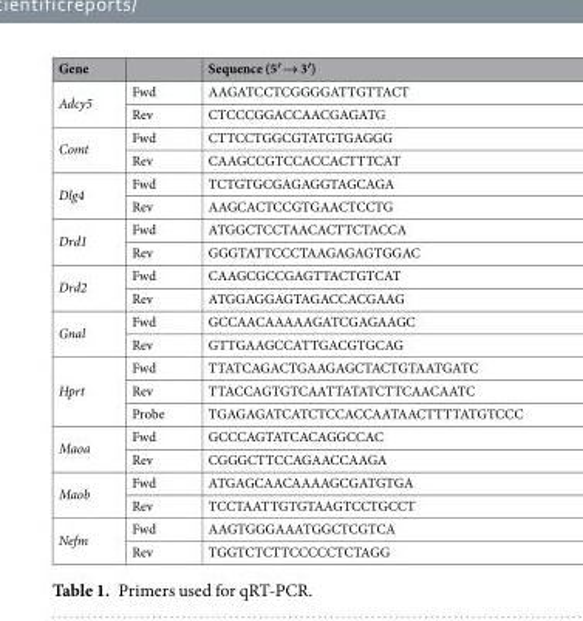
<table><thead><tr><td>Gene</td><td></td><td>Sequence (5′ → 3′)</td></tr></thead><tbody><tr><td rowspan="2">Adcy5</td><td>Fwd</td><td>AAGATCCTCGGGGATTGTTACT</td></tr><tr><td>Rev</td><td>CTCCCGGACCAACGAGATG</td></tr><tr><td rowspan="2">Comt</td><td>Fwd</td><td>CTTCCTGGCGTATGTGAGGG</td></tr><tr><td>Rev</td><td>CAAGCCGTCCACCACTTTCAT</td></tr><tr><td rowspan="2">Dlg4</td><td>Fwd</td><td>TCTGTGCGAGAGGTAGCAGA</td></tr><tr><td>Rev</td><td>AAGCACTCCGTGAACTCCTG</td></tr><tr><td rowspan="2">Drd1</td><td>Fwd</td><td>ATGGCTCCTAACACTTCTACCA</td></tr><tr><td>Rev</td><td>GGGTATTCCCTAAGAGAGTGGAC</td></tr><tr><td rowspan="2">Drd2</td><td>Fwd</td><td>CAAGCGCCGAGTTACTGTCAT</td></tr><tr><td>Rev</td><td>ATGGAGGAGTAGACCACGAAG</td></tr><tr><td rowspan="2">Gnal</td><td>Fwd</td><td>GCCAACAAAAAGATCGAGAAGC</td></tr><tr><td>Rev</td><td>GTTGAAGCCATTGACGTGCAG</td></tr><tr><td rowspan="3">Hprt</td><td>Fwd</td><td>TTATCAGACTGAAGAGCTACTGTAATGATC</td></tr><tr><td>Rev</td><td>TTACCAGTGTCAATTATATCTTCAACAATC</td></tr><tr><td>Probe</td><td>TGAGAGATCATCTCCACCAATAACTTTTATGTCCC</td></tr><tr><td rowspan="2">Maoa</td><td>Fwd</td><td>GCCCAGTATCACAGGCCAC</td></tr><tr><td>Rev</td><td>CGGGCTTCCAGAACCAAGA</td></tr><tr><td rowspan="2">Maob</td><td>Fwd</td><td>ATGAGCAACAAAAGCGATGTGA</td></tr><tr><td>Rev</td><td>TCCTAATTGTGTAAGTCCTGCCT</td></tr><tr><td rowspan="2">Nefm</td><td>Fwd</td><td>AAGTGGGAAATGGCTCGTCA</td></tr><tr><td>Rev</td><td>TGGTCTCTTCCCCCTCTAGG</td></tr></tbody></table>